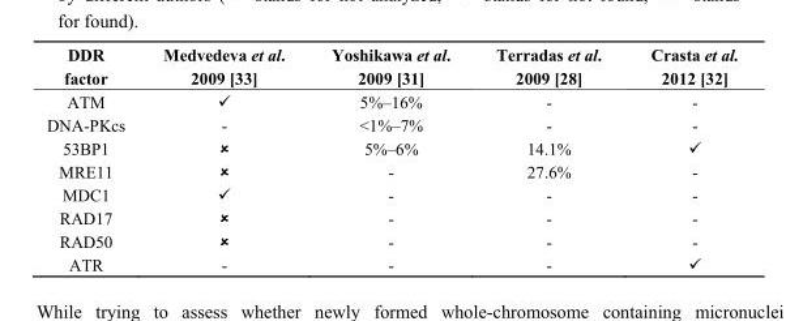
<table><thead><tr><td>DDR factor</td><td>Medvedeva et al. 2009 [33]</td><td>Yoshikawa et al. 2009 [31]</td><td>Terradas et al. 2009 [28]</td><td>Crasta et al. 2012 [32]</td></tr></thead><tbody><tr><td>ATM</td><td>✓</td><td>5%–16%</td><td>-</td><td>-</td></tr><tr><td>DNA-PKcs</td><td>-</td><td>&lt;1%–7%</td><td>-</td><td>-</td></tr><tr><td>53BP1</td><td>✘</td><td>5%–6%</td><td>14.1%</td><td>✓</td></tr><tr><td>MRE11</td><td>✘</td><td>-</td><td>27.6%</td><td>-</td></tr><tr><td>MDC1</td><td>✓</td><td>-</td><td>-</td><td>-</td></tr><tr><td>RAD17</td><td>✘</td><td>-</td><td>-</td><td>-</td></tr><tr><td>RAD50</td><td>✘</td><td>-</td><td>-</td><td>-</td></tr><tr><td>ATR</td><td>-</td><td>-</td><td>-</td><td>✓</td></tr></tbody></table>